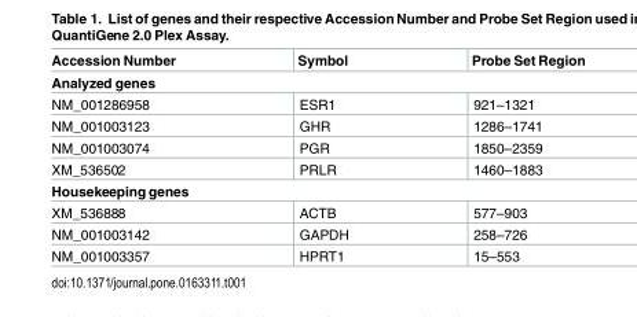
<table><thead><tr><td>Accession Number</td><td>Symbol</td><td>Probe Set Region</td></tr></thead><tbody><tr><td colspan="3">Analyzed genes</td></tr><tr><td>NM_001286958</td><td>ESR1</td><td>921–1321</td></tr><tr><td>NM_001003123</td><td>GHR</td><td>1286–1741</td></tr><tr><td>NM_001003074</td><td>PGR</td><td>1850–2359</td></tr><tr><td>XM_536502</td><td>PRLR</td><td>1460–1883</td></tr><tr><td colspan="3">Housekeeping genes</td></tr><tr><td>XM_536888</td><td>ACTB</td><td>577–903</td></tr><tr><td>NM_001003142</td><td>GAPDH</td><td>258–726</td></tr><tr><td>NM_001003357</td><td>HPRT1</td><td>15–553</td></tr></tbody></table>